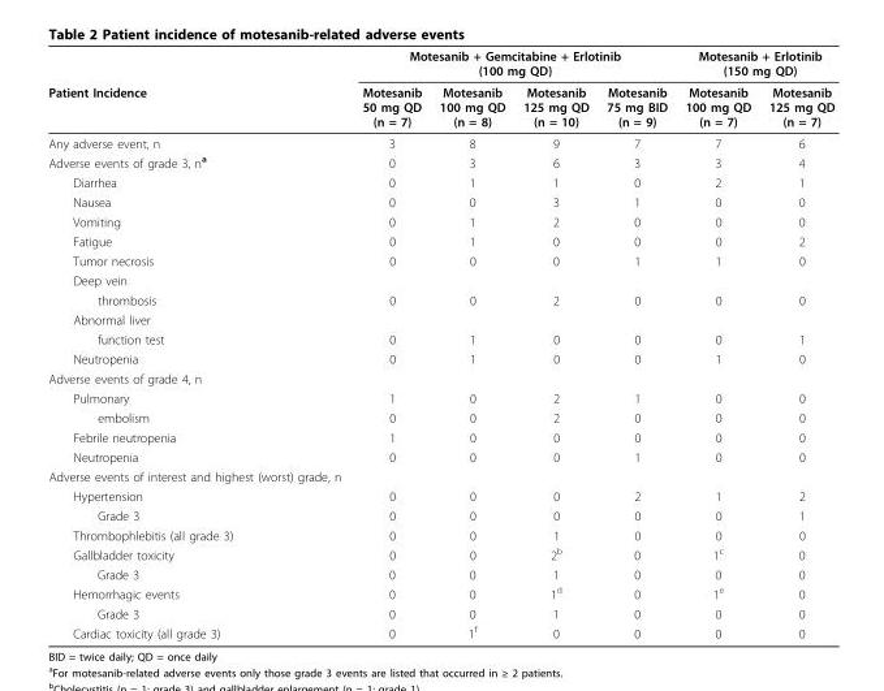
<table><thead><tr><td rowspan="2">Patient Incidence</td><td colspan="4">Motesanib + Gemcitabine + Erlotinib (100 mg QD)</td><td colspan="2">Motesanib + Erlotinib (150 mg QD)</td></tr><tr><td>Motesanib 50 mg QD (n = 7)</td><td>Motesanib 100 mg QD (n = 8)</td><td>Motesanib 125 mg QD (n = 10)</td><td>Motesanib 75 mg BID (n = 9)</td><td>Motesanib 100 mg QD (n = 7)</td><td>Motesanib 125 mg QD (n = 7)</td></tr></thead><tbody><tr><td>Any adverse event, n</td><td>3</td><td>8</td><td>9</td><td>7</td><td>7</td><td>6</td></tr><tr><td>Adverse events of grade 3, n<sup>a</sup></td><td>0</td><td>3</td><td>6</td><td>3</td><td>3</td><td>4</td></tr><tr><td>Diarrhea</td><td>0</td><td>1</td><td>1</td><td>0</td><td>2</td><td>1</td></tr><tr><td>Nausea</td><td>0</td><td>0</td><td>3</td><td>1</td><td>0</td><td>0</td></tr><tr><td>Vomiting</td><td>0</td><td>1</td><td>2</td><td>0</td><td>0</td><td>0</td></tr><tr><td>Fatigue</td><td>0</td><td>1</td><td>0</td><td>0</td><td>0</td><td>2</td></tr><tr><td>Tumor necrosis</td><td>0</td><td>0</td><td>0</td><td>1</td><td>1</td><td>0</td></tr><tr><td colspan="7">Deep vein</td></tr><tr><td>thrombosis</td><td>0</td><td>0</td><td>2</td><td>0</td><td>0</td><td>0</td></tr><tr><td colspan="7">Abnormal liver</td></tr><tr><td>function test</td><td>0</td><td>1</td><td>0</td><td>0</td><td>0</td><td>1</td></tr><tr><td>Neutropenia</td><td>0</td><td>1</td><td>0</td><td>0</td><td>1</td><td>0</td></tr><tr><td colspan="7">Adverse events of grade 4, n</td></tr><tr><td>Pulmonary</td><td>1</td><td>0</td><td>2</td><td>1</td><td>0</td><td>0</td></tr><tr><td>embolism</td><td>0</td><td>0</td><td>2</td><td>0</td><td>0</td><td>0</td></tr><tr><td>Febrile neutropenia</td><td>1</td><td>0</td><td>0</td><td>0</td><td>0</td><td>0</td></tr><tr><td>Neutropenia</td><td>0</td><td>0</td><td>0</td><td>1</td><td>0</td><td>0</td></tr><tr><td colspan="7">Adverse events of interest and highest (worst) grade, n</td></tr><tr><td>Hypertension</td><td>0</td><td>0</td><td>0</td><td>2</td><td>1</td><td>2</td></tr><tr><td>Grade 3</td><td>0</td><td>0</td><td>0</td><td>0</td><td>0</td><td>1</td></tr><tr><td>Thrombophlebitis (all grade 3)</td><td>0</td><td>0</td><td>1</td><td>0</td><td>0</td><td>0</td></tr><tr><td>Gallbladder toxicity</td><td>0</td><td>0</td><td>2<sup>b</sup></td><td>0</td><td>1<sup>c</sup></td><td>0</td></tr><tr><td>Grade 3</td><td>0</td><td>0</td><td>1</td><td>0</td><td>0</td><td>0</td></tr><tr><td>Hemorrhagic events</td><td>0</td><td>0</td><td>1<sup>d</sup></td><td>0</td><td>1<sup>e</sup></td><td>0</td></tr><tr><td>Grade 3</td><td>0</td><td>0</td><td>1</td><td>0</td><td>0</td><td>0</td></tr><tr><td>Cardiac toxicity (all grade 3)</td><td>0</td><td>1<sup>f</sup></td><td>0</td><td>0</td><td>0</td><td>0</td></tr></tbody></table>